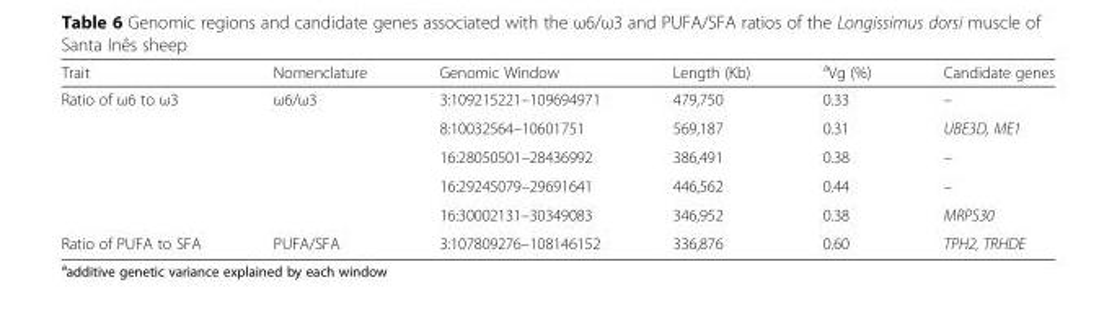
<table><thead><tr><td>Trait</td><td>Nomenclature</td><td>Genomic Window</td><td>Length (Kb)</td><td><sup>a</sup>Vg (%)</td><td>Candidate genes</td></tr></thead><tbody><tr><td rowspan="5">Ratio of ω6 to ω3</td><td>ω6/ω3</td><td>3:109215221–109694971</td><td>479,750</td><td>0.33</td><td>–</td></tr><tr><td></td><td>8:10032564–10601751</td><td>569,187</td><td>0.31</td><td>UBE3D, ME1</td></tr><tr><td></td><td>16:28050501–28436992</td><td>386,491</td><td>0.38</td><td>–</td></tr><tr><td></td><td>16:29245079–29691641</td><td>446,562</td><td>0.44</td><td>–</td></tr><tr><td></td><td>16:30002131–30349083</td><td>346,952</td><td>0.38</td><td>MRPS30</td></tr><tr><td>Ratio of PUFA to SFA</td><td>PUFA/SFA</td><td>3:107809276–108146152</td><td>336,876</td><td>0.60</td><td>TPH2, TRHDE</td></tr></tbody></table>